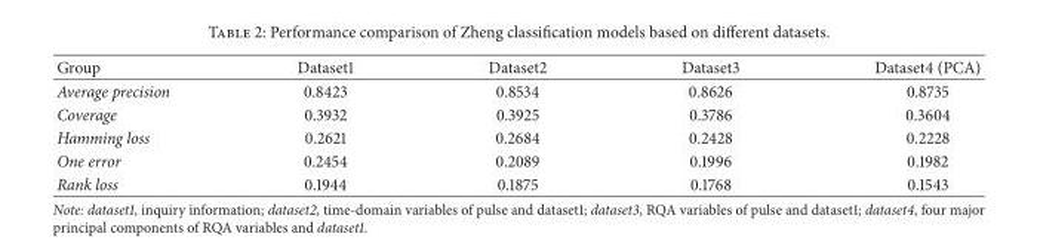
<table><thead><tr><td>Group</td><td>Dataset1</td><td>Dataset2</td><td>Dataset3</td><td>Dataset4 (PCA)</td></tr></thead><tbody><tr><td>Average precision</td><td>0.8423</td><td>0.8534</td><td>0.8626</td><td>0.8735</td></tr><tr><td>Coverage</td><td>0.3932</td><td>0.3925</td><td>0.3786</td><td>0.3604</td></tr><tr><td>Hamming loss</td><td>0.2621</td><td>0.2684</td><td>0.2428</td><td>0.2228</td></tr><tr><td>One error</td><td>0.2454</td><td>0.2089</td><td>0.1996</td><td>0.1982</td></tr><tr><td>Rank loss</td><td>0.1944</td><td>0.1875</td><td>0.1768</td><td>0.1543</td></tr></tbody></table>